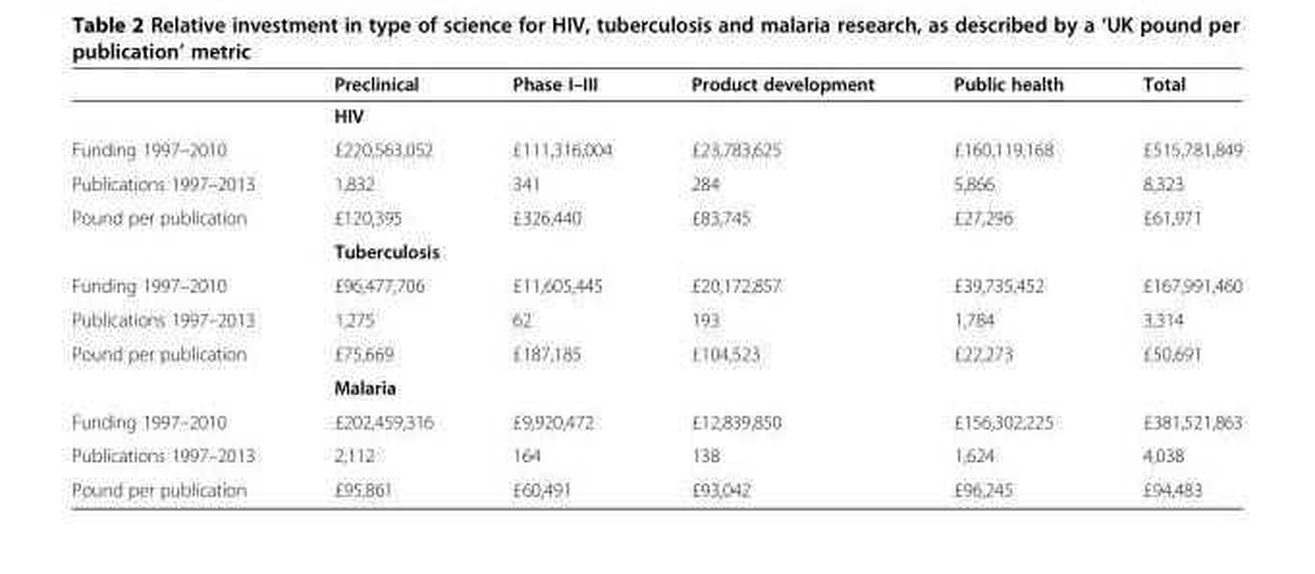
<table><thead><tr><td></td><td>Preclinical</td><td>Phase I–III</td><td>Product development</td><td>Public health</td><td>Total</td></tr></thead><tbody><tr><td></td><td>HIV</td><td></td><td></td><td></td><td></td></tr><tr><td>Funding 1997–2010</td><td>£220,563,052</td><td>£111,316,004</td><td>£23,783,625</td><td>£160,119,168</td><td>£515,781,849</td></tr><tr><td>Publications 1997–2013</td><td>1,832</td><td>341</td><td>284</td><td>5,866</td><td>8,323</td></tr><tr><td rowspan="2">Pound per publication</td><td>£120,395</td><td>£326,440</td><td>£83,745</td><td>£27,296</td><td>£61,971</td></tr><tr><td colspan="5">Tuberculosis</td></tr><tr><td>Funding 1997–2010</td><td>£96,477,706</td><td>£11,605,445</td><td>£20,172,857</td><td>£39,735,452</td><td>£167,991,460</td></tr><tr><td>Publications 1997–2013</td><td>1,275</td><td>62</td><td>193</td><td>1,784</td><td>3,314</td></tr><tr><td rowspan="2">Pound per publication</td><td>£75,669</td><td>£187,185</td><td>£104,523</td><td>£22,273</td><td>£50,691</td></tr><tr><td colspan="5">Malaria</td></tr><tr><td>Funding 1997–2010</td><td>£202,459,316</td><td>£9,920,472</td><td>£12,839,850</td><td>£156,302,225</td><td>£381,521,863</td></tr><tr><td>Publications 1997–2013</td><td>2,112</td><td>164</td><td>138</td><td>1,624</td><td>4,038</td></tr><tr><td>Pound per publication</td><td>£95,861</td><td>£60,491</td><td>£93,042</td><td>£96,245</td><td>£94,483</td></tr></tbody></table>